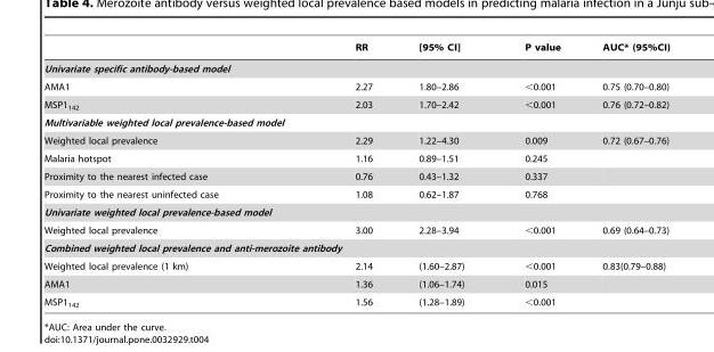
<table><thead><tr><td></td><td>RR</td><td>[95% CI]</td><td>P value</td><td>AUC* (95%CI)</td></tr></thead><tbody><tr><td colspan="5">Univariate specific antibody-based model</td></tr><tr><td>AMA1</td><td>2.27</td><td>1.80–2.86</td><td>&lt;0.001</td><td>0.75 (0.70–0.80)</td></tr><tr><td>MSP1<sub>142</sub></td><td>2.03</td><td>1.70–2.42</td><td>&lt;0.001</td><td>0.76 (0.72–0.82)</td></tr><tr><td colspan="5">Multivariable weighted local prevalence-based model</td></tr><tr><td>Weighted local prevalence</td><td>2.29</td><td>1.22–4.30</td><td>0.009</td><td>0.72 (0.67–0.76)</td></tr><tr><td>Malaria hotspot</td><td>1.16</td><td>0.89–1.51</td><td>0.245</td><td></td></tr><tr><td>Proximity to the nearest infected case</td><td>0.76</td><td>0.43–1.32</td><td>0.337</td><td></td></tr><tr><td>Proximity to the nearest uninfected case</td><td>1.08</td><td>0.62–1.87</td><td>0.768</td><td></td></tr><tr><td colspan="5">Univariate weighted local prevalence-based model</td></tr><tr><td>Weighted local prevalence</td><td>3.00</td><td>2.28–3.94</td><td>&lt;0.001</td><td>0.69 (0.64–0.73)</td></tr><tr><td colspan="5">Combined weighted local prevalence and anti-merozoite antibody</td></tr><tr><td>Weighted local prevalence (1 km)</td><td>2.14</td><td>(1.60–2.87)</td><td>&lt;0.001</td><td>0.83(0.79–0.88)</td></tr><tr><td>AMA1</td><td>1.36</td><td>(1.06–1.74)</td><td>0.015</td><td></td></tr><tr><td>MSP1<sub>142</sub></td><td>1.56</td><td>(1.28–1.89)</td><td>&lt;0.001</td><td></td></tr></tbody></table>